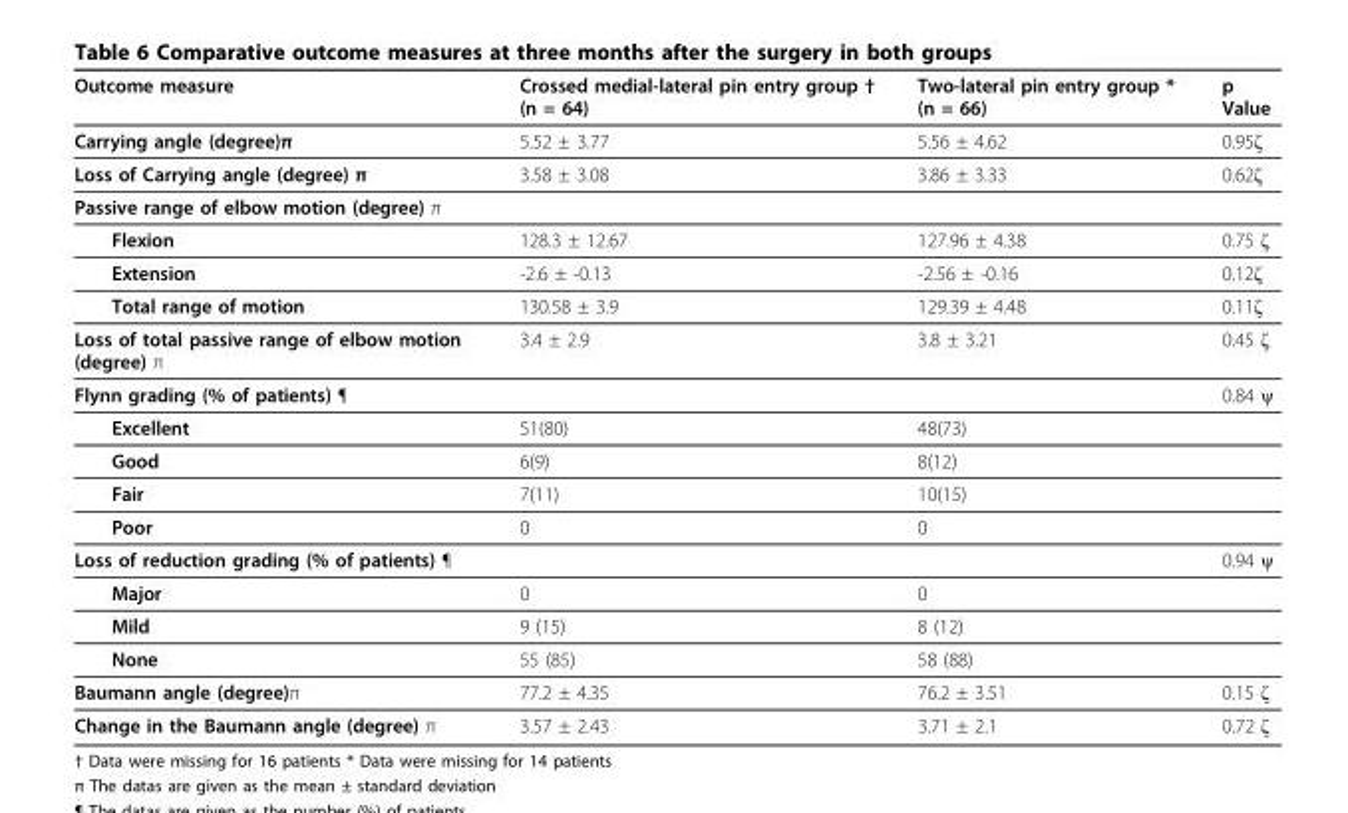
<table><thead><tr><td>Outcome measure</td><td>Crossed medial-lateral pin entry group † (n = 64)</td><td>Two-lateral pin entry group * (n = 66)</td><td>p Value</td></tr></thead><tbody><tr><td>Carrying angle (degree)π</td><td>5.52 ± 3.77</td><td>5.56 ± 4.62</td><td>0.95ζ</td></tr><tr><td>Loss of Carrying angle (degree) π</td><td>3.58 ± 3.08</td><td>3.86 ± 3.33</td><td>0.62ζ</td></tr><tr><td colspan="4">Passive range of elbow motion (degree) π</td></tr><tr><td>Flexion</td><td>128.3 ± 12.67</td><td>127.96 ± 4.38</td><td>0.75 ζ</td></tr><tr><td>Extension</td><td>-2.6 ± -0.13</td><td>-2.56 ± -0.16</td><td>0.12ζ</td></tr><tr><td>Total range of motion</td><td>130.58 ± 3.9</td><td>129.39 ± 4.48</td><td>0.11ζ</td></tr><tr><td>Loss of total passive range of elbow motion (degree) π</td><td>3.4 ± 2.9</td><td>3.8 ± 3.21</td><td>0.45 ζ</td></tr><tr><td>Flynn grading (% of patients) ¶</td><td></td><td></td><td>0.84 ψ</td></tr><tr><td>Excellent</td><td>51(80)</td><td>48(73)</td><td></td></tr><tr><td>Good</td><td>6(9)</td><td>8(12)</td><td></td></tr><tr><td>Fair</td><td>7(11)</td><td>10(15)</td><td></td></tr><tr><td>Poor</td><td>0</td><td>0</td><td></td></tr><tr><td>Loss of reduction grading (% of patients) ¶</td><td></td><td></td><td>0.94 ψ</td></tr><tr><td>Major</td><td>0</td><td>0</td><td></td></tr><tr><td>Mild</td><td>9 (15)</td><td>8 (12)</td><td></td></tr><tr><td>None</td><td>55 (85)</td><td>58 (88)</td><td></td></tr><tr><td>Baumann angle (degree)π</td><td>77.2 ± 4.35</td><td>76.2 ± 3.51</td><td>0.15 ζ</td></tr><tr><td>Change in the Baumann angle (degree) π</td><td>3.57 ± 2.43</td><td>3.71 ± 2.1</td><td>0.72 ζ</td></tr></tbody></table>